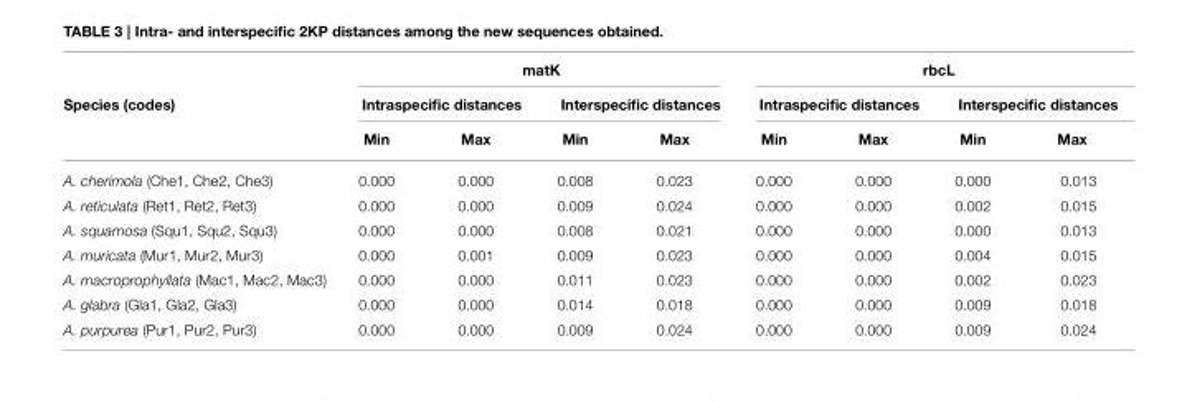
<table><thead><tr><td rowspan="3">Species (codes)</td><td colspan="4">matK</td><td colspan="4">rbcL</td></tr><tr><td colspan="2">Intraspecific distances</td><td colspan="2">Interspecific distances</td><td colspan="2">Intraspecific distances</td><td colspan="2">Interspecific distances</td></tr><tr><td>Min</td><td>Max</td><td>Min</td><td>Max</td><td>Min</td><td>Max</td><td>Min</td><td>Max</td></tr></thead><tbody><tr><td>A. cherimola (Che1, Che2, Che3)</td><td>0.000</td><td>0.000</td><td>0.008</td><td>0.023</td><td>0.000</td><td>0.000</td><td>0.000</td><td>0.013</td></tr><tr><td>A. reticulata (Ret1, Ret2, Ret3)</td><td>0.000</td><td>0.000</td><td>0.009</td><td>0.024</td><td>0.000</td><td>0.000</td><td>0.002</td><td>0.015</td></tr><tr><td>A. squamosa (Squ1, Squ2, Squ3)</td><td>0.000</td><td>0.000</td><td>0.008</td><td>0.021</td><td>0.000</td><td>0.000</td><td>0.000</td><td>0.013</td></tr><tr><td>A. muricata (Mur1, Mur2, Mur3)</td><td>0.000</td><td>0.001</td><td>0.009</td><td>0.023</td><td>0.000</td><td>0.000</td><td>0.004</td><td>0.015</td></tr><tr><td>A. macroprophyllata (Mac1, Mac2, Mac3)</td><td>0.000</td><td>0.000</td><td>0.011</td><td>0.023</td><td>0.000</td><td>0.000</td><td>0.002</td><td>0.023</td></tr><tr><td>A. glabra (Gla1, Gla2, Gla3)</td><td>0.000</td><td>0.000</td><td>0.014</td><td>0.018</td><td>0.000</td><td>0.000</td><td>0.009</td><td>0.018</td></tr><tr><td>A. purpurea (Pur1, Pur2, Pur3)</td><td>0.000</td><td>0.000</td><td>0.009</td><td>0.024</td><td>0.000</td><td>0.000</td><td>0.009</td><td>0.024</td></tr></tbody></table>